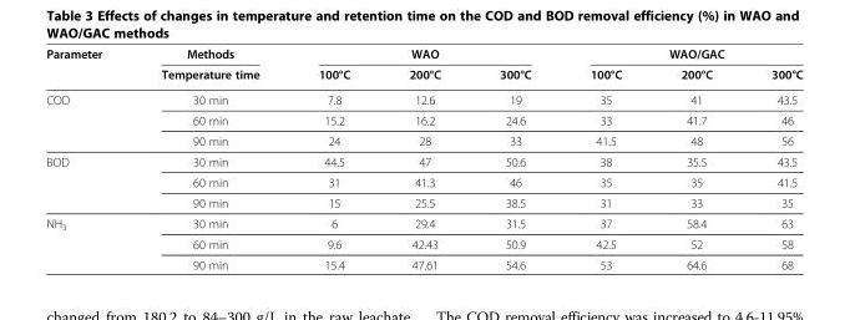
<table><thead><tr><td rowspan="2">Parameter</td><td rowspan="2">Methods Temperature time</td><td colspan="3">WAO</td><td colspan="3">WAO/GAC</td></tr><tr><td>100°C</td><td>200°C</td><td>300°C</td><td>100°C</td><td>200°C</td><td>300°C</td></tr></thead><tbody><tr><td rowspan="3">COD</td><td>30 min</td><td>7.8</td><td>12.6</td><td>19</td><td>35</td><td>41</td><td>43.5</td></tr><tr><td>60 min</td><td>15.2</td><td>16.2</td><td>24.6</td><td>33</td><td>41.7</td><td>46</td></tr><tr><td>90 min</td><td>24</td><td>28</td><td>33</td><td>41.5</td><td>48</td><td>56</td></tr><tr><td rowspan="3">BOD</td><td>30 min</td><td>44.5</td><td>47</td><td>50.6</td><td>38</td><td>35.5</td><td>43.5</td></tr><tr><td>60 min</td><td>31</td><td>41.3</td><td>46</td><td>35</td><td>35</td><td>41.5</td></tr><tr><td>90 min</td><td>15</td><td>25.5</td><td>38.5</td><td>31</td><td>33</td><td>35</td></tr><tr><td rowspan="3">NH<sub>3</sub></td><td>30 min</td><td>6</td><td>29.4</td><td>31.5</td><td>37</td><td>58.4</td><td>63</td></tr><tr><td>60 min</td><td>9.6</td><td>42.43</td><td>50.9</td><td>42.5</td><td>52</td><td>58</td></tr><tr><td>90 min</td><td>15.4</td><td>47.61</td><td>54.6</td><td>53</td><td>64.6</td><td>68</td></tr></tbody></table>